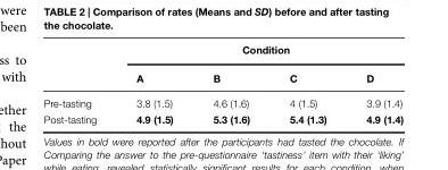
<table><thead><tr><td rowspan="2"></td><td colspan="4">Condition</td></tr><tr><td>A</td><td>B</td><td>C</td><td>D</td></tr></thead><tbody><tr><td>Pre-tasting</td><td>3.8 (1.5)</td><td>4.6 (1.6)</td><td>4 (1.5)</td><td>3.9 (1.4)</td></tr><tr><td>Post-tasting</td><td>4.9 (1.5)</td><td>5.3 (1.6)</td><td>5.4 (1.3)</td><td>4.9 (1.4)</td></tr></tbody></table>